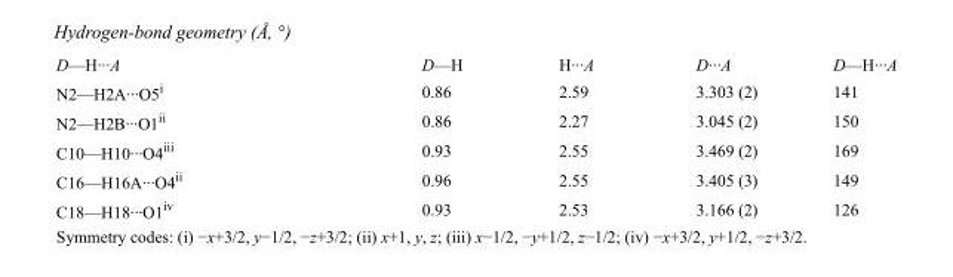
<table><tbody><tr><td>D—H···A</td><td>D—H</td><td>H···A</td><td>D···A</td><td>D—H···A</td></tr><tr><td>N2—H2A···O5<sup>i</sup></td><td>0.86</td><td>2.59</td><td>3.303 (2)</td><td>141</td></tr><tr><td>N2—H2B···O1<sup>ii</sup></td><td>0.86</td><td>2.27</td><td>3.045 (2)</td><td>150</td></tr><tr><td>C10—H10···O4<sup>iii</sup></td><td>0.93</td><td>2.55</td><td>3.469 (2)</td><td>169</td></tr><tr><td>C16—H16A···O4<sup>ii</sup></td><td>0.96</td><td>2.55</td><td>3.405 (3)</td><td>149</td></tr><tr><td>C18—H18···O1<sup>iv</sup></td><td>0.93</td><td>2.53</td><td>3.166 (2)</td><td>126</td></tr></tbody></table>